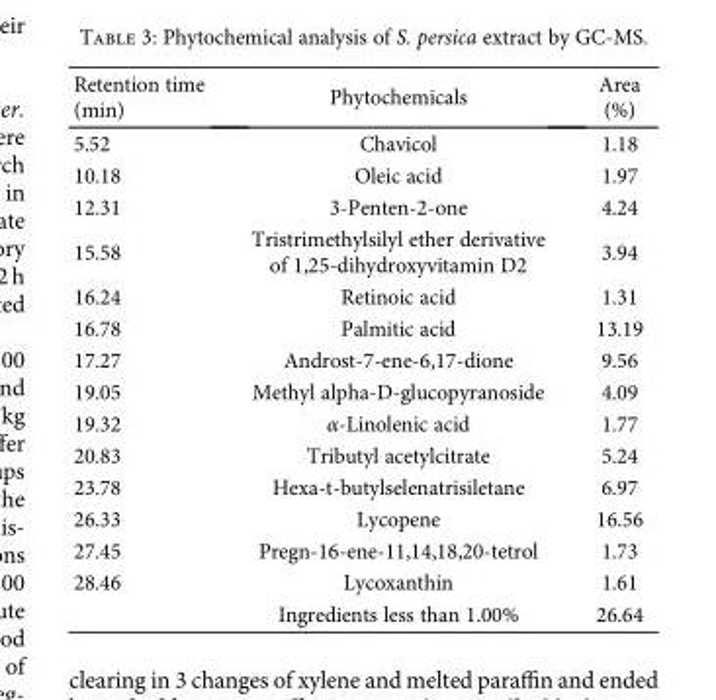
<table><thead><tr><td>Retention time (min)</td><td>Phytochemicals</td><td>Area (%)</td></tr></thead><tbody><tr><td>5.52</td><td>Chavicol</td><td>1.18</td></tr><tr><td>10.18</td><td>Oleic acid</td><td>1.97</td></tr><tr><td>12.31</td><td>3-Penten-2-one</td><td>4.24</td></tr><tr><td>15.58</td><td>Tristrimethylsilyl ether derivative of 1,25-dihydroxyvitamin D2</td><td>3.94</td></tr><tr><td>16.24</td><td>Retinoic acid</td><td>1.31</td></tr><tr><td>16.78</td><td>Palmitic acid</td><td>13.19</td></tr><tr><td>17.27</td><td>Androst-7-ene-6,17-dione</td><td>9.56</td></tr><tr><td>19.05</td><td>Methyl alpha-D-glucopyranoside</td><td>4.09</td></tr><tr><td>19.32</td><td>α-Linolenic acid</td><td>1.77</td></tr><tr><td>20.83</td><td>Tributyl acetylcitrate</td><td>5.24</td></tr><tr><td>23.78</td><td>Hexa-t-butylselenatrisiletane</td><td>6.97</td></tr><tr><td>26.33</td><td>Lycopene</td><td>16.56</td></tr><tr><td>27.45</td><td>Pregn-16-ene-11,14,18,20-tetrol</td><td>1.73</td></tr><tr><td rowspan="2">28.46</td><td>Lycoxanthin</td><td>1.61</td></tr><tr><td>Ingredients less than 1.00%</td><td>26.64</td></tr></tbody></table>